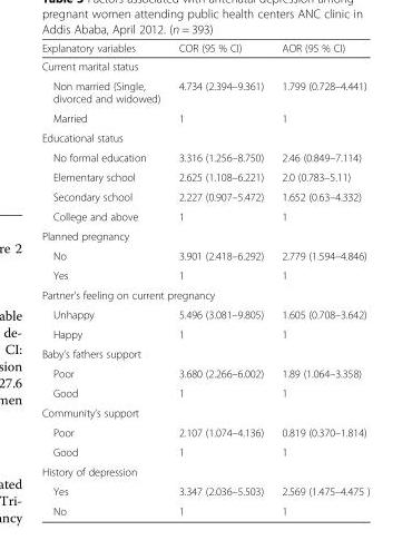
<table><thead><tr><td>Explanatory variables</td><td>COR (95 % CI)</td><td>AOR (95 % CI)</td></tr></thead><tbody><tr><td colspan="3">Current marital status</td></tr><tr><td>Non married (Single, divorced and widowed)</td><td>4.734 (2.394–9.361)</td><td>1.799 (0.728–4.441)</td></tr><tr><td>Married</td><td>1</td><td>1</td></tr><tr><td colspan="3">Educational status</td></tr><tr><td>No formal education</td><td>3.316 (1.256–8.750)</td><td>2.46 (0.849–7.114)</td></tr><tr><td>Elementary school</td><td>2.625 (1.108–6.221)</td><td>2.0 (0.783–5.11)</td></tr><tr><td>Secondary school</td><td>2.227 (0.907–5.472)</td><td>1.652 (0.63–4.332)</td></tr><tr><td>College and above</td><td>1</td><td>1</td></tr><tr><td colspan="3">Planned pregnancy</td></tr><tr><td>No</td><td>3.901 (2.418–6.292)</td><td>2.779 (1.594–4.846)</td></tr><tr><td>Yes</td><td>1</td><td>1</td></tr><tr><td colspan="3">Partner’s feeling on current pregnancy</td></tr><tr><td>Unhappy</td><td>5.496 (3.081–9.805)</td><td>1.605 (0.708–3.642)</td></tr><tr><td>Happy</td><td>1</td><td>1</td></tr><tr><td colspan="3">Baby’s fathers support</td></tr><tr><td>Poor</td><td>3.680 (2.266–6.002)</td><td>1.89 (1.064–3.358)</td></tr><tr><td>Good</td><td>1</td><td>1</td></tr><tr><td colspan="3">Community’s support</td></tr><tr><td>Poor</td><td>2.107 (1.074–4.136)</td><td>0.819 (0.370–1.814)</td></tr><tr><td>Good</td><td>1</td><td>1</td></tr><tr><td colspan="3">History of depression</td></tr><tr><td>Yes</td><td>3.347 (2.036–5.503)</td><td>2.569 (1.475–4.475 )</td></tr><tr><td>No</td><td>1</td><td>1</td></tr></tbody></table>